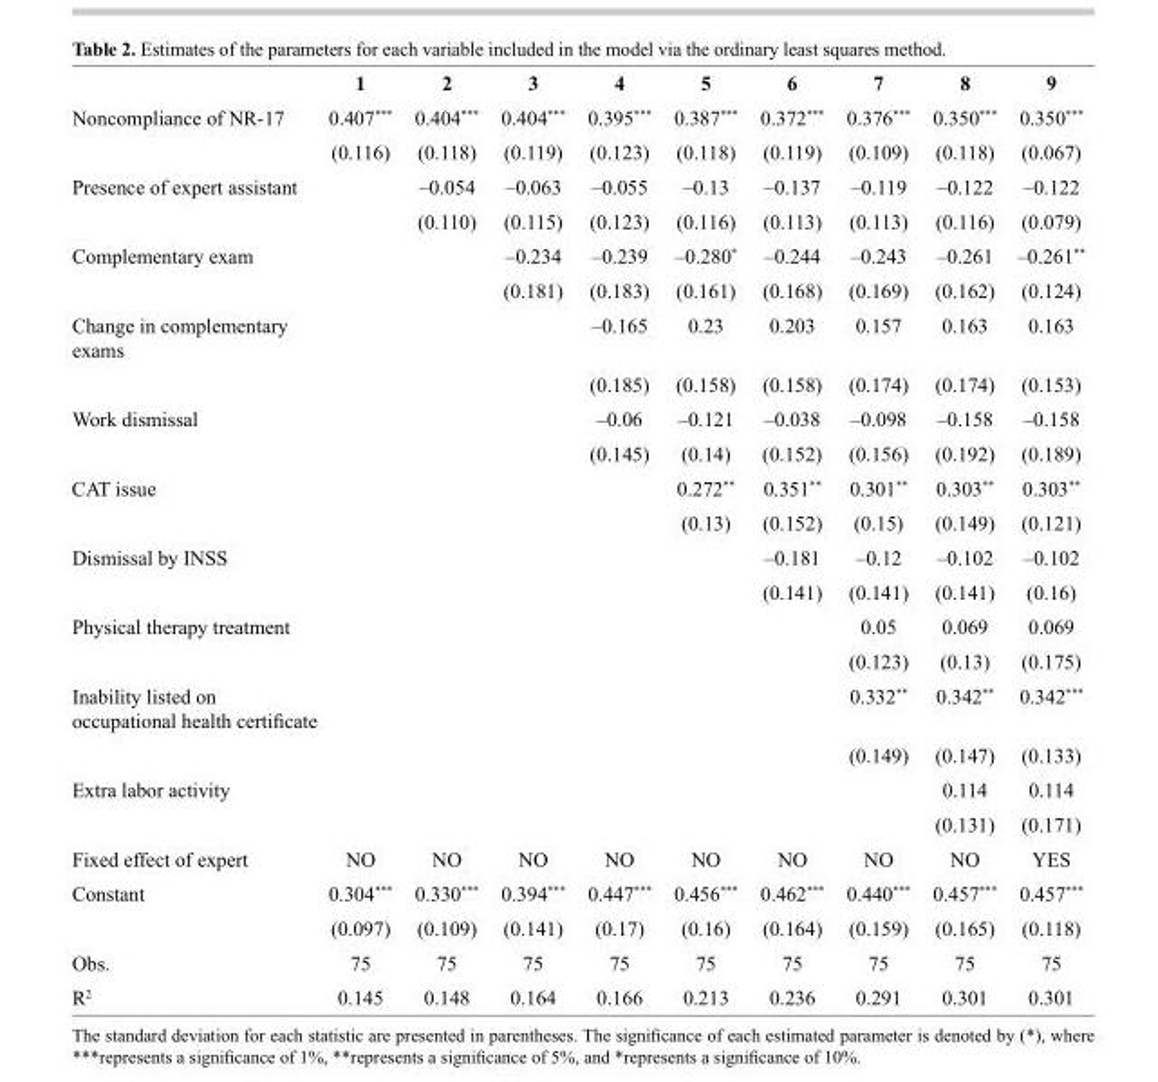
<table><thead><tr><td></td><td>1</td><td>2</td><td>3</td><td>4</td><td>5</td><td>6</td><td>7</td><td>8</td><td>9</td></tr></thead><tbody><tr><td rowspan="2">Noncompliance of NR-17</td><td>0.407***</td><td>0.404***</td><td>0.404***</td><td>0.395***</td><td>0.387***</td><td>0.372***</td><td>0.376***</td><td>0.350***</td><td>0.350***</td></tr><tr><td>(0.116)</td><td>(0.118)</td><td>(0.119)</td><td>(0.123)</td><td>(0.118)</td><td>(0.119)</td><td>(0.109)</td><td>(0.118)</td><td>(0.067)</td></tr><tr><td rowspan="2">Presence of expert assistant</td><td></td><td>–0.054</td><td>–0.063</td><td>–0.055</td><td>–0.13</td><td>–0.137</td><td>–0.119</td><td>–0.122</td><td>–0.122</td></tr><tr><td></td><td>(0.110)</td><td>(0.115)</td><td>(0.123)</td><td>(0.116)</td><td>(0.113)</td><td>(0.113)</td><td>(0.116)</td><td>(0.079)</td></tr><tr><td rowspan="2">Complementary exam</td><td></td><td></td><td>–0.234</td><td>–0.239</td><td>–0.280*</td><td>–0.244</td><td>–0.243</td><td>–0.261</td><td>–0.261**</td></tr><tr><td></td><td></td><td>(0.181)</td><td>(0.183)</td><td>(0.161)</td><td>(0.168)</td><td>(0.169)</td><td>(0.162)</td><td>(0.124)</td></tr><tr><td rowspan="2">Change in complementary exams</td><td></td><td></td><td></td><td>–0.165</td><td>0.23</td><td>0.203</td><td>0.157</td><td>0.163</td><td>0.163</td></tr><tr><td></td><td></td><td></td><td>(0.185)</td><td>(0.158)</td><td>(0.158)</td><td>(0.174)</td><td>(0.174)</td><td>(0.153)</td></tr><tr><td rowspan="2">Work dismissal</td><td></td><td></td><td></td><td>–0.06</td><td>–0.121</td><td>–0.038</td><td>–0.098</td><td>–0.158</td><td>–0.158</td></tr><tr><td></td><td></td><td></td><td>(0.145)</td><td>(0.14)</td><td>(0.152)</td><td>(0.156)</td><td>(0.192)</td><td>(0.189)</td></tr><tr><td rowspan="2">CAT issue</td><td></td><td></td><td></td><td></td><td>0.272**</td><td>0.351**</td><td>0.301**</td><td>0.303**</td><td>0.303**</td></tr><tr><td></td><td></td><td></td><td></td><td>(0.13)</td><td>(0.152)</td><td>(0.15)</td><td>(0.149)</td><td>(0.121)</td></tr><tr><td rowspan="2">Dismissal by INSS</td><td></td><td></td><td></td><td></td><td></td><td>–0.181</td><td>–0.12</td><td>–0.102</td><td>–0.102</td></tr><tr><td></td><td></td><td></td><td></td><td></td><td>(0.141)</td><td>(0.141)</td><td>(0.141)</td><td>(0.16)</td></tr><tr><td rowspan="2">Physical therapy treatment</td><td></td><td></td><td></td><td></td><td></td><td></td><td>0.05</td><td>0.069</td><td>0.069</td></tr><tr><td></td><td></td><td></td><td></td><td></td><td></td><td>(0.123)</td><td>(0.13)</td><td>(0.175)</td></tr><tr><td rowspan="2">Inability listed on occupational health certificate</td><td></td><td></td><td></td><td></td><td></td><td></td><td>0.332**</td><td>0.342**</td><td>0.342***</td></tr><tr><td></td><td></td><td></td><td></td><td></td><td></td><td>(0.149)</td><td>(0.147)</td><td>(0.133)</td></tr><tr><td rowspan="2">Extra labor activity</td><td></td><td></td><td></td><td></td><td></td><td></td><td></td><td>0.114</td><td>0.114</td></tr><tr><td></td><td></td><td></td><td></td><td></td><td></td><td></td><td>(0.131)</td><td>(0.171)</td></tr><tr><td>Fixed effect of expert</td><td>NO</td><td>NO</td><td>NO</td><td>NO</td><td>NO</td><td>NO</td><td>NO</td><td>NO</td><td>YES</td></tr><tr><td rowspan="2">Constant</td><td>0.304***</td><td>0.330***</td><td>0.394***</td><td>0.447***</td><td>0.456***</td><td>0.462***</td><td>0.440***</td><td>0.457***</td><td>0.457***</td></tr><tr><td>(0.097)</td><td>(0.109)</td><td>(0.141)</td><td>(0.17)</td><td>(0.16)</td><td>(0.164)</td><td>(0.159)</td><td>(0.165)</td><td>(0.118)</td></tr><tr><td>Obs.</td><td>75</td><td>75</td><td>75</td><td>75</td><td>75</td><td>75</td><td>75</td><td>75</td><td>75</td></tr><tr><td>R<sup>2</sup></td><td>0.145</td><td>0.148</td><td>0.164</td><td>0.166</td><td>0.213</td><td>0.236</td><td>0.291</td><td>0.301</td><td>0.301</td></tr></tbody></table>